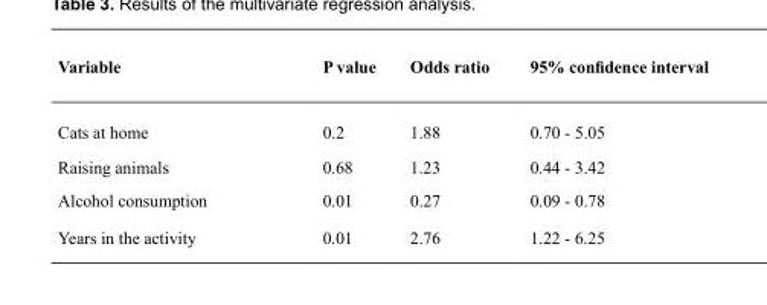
<table><thead><tr><td>Variable</td><td>P value</td><td>Odds ratio</td><td>95% confidence interval</td></tr></thead><tbody><tr><td>Cats at home</td><td>0.2</td><td>1.88</td><td>0.70 - 5.05</td></tr><tr><td>Raising animals</td><td>0.68</td><td>1.23</td><td>0.44 - 3.42</td></tr><tr><td>Alcohol consumption</td><td>0.01</td><td>0.27</td><td>0.09 - 0.78</td></tr><tr><td>Years in the activity</td><td>0.01</td><td>2.76</td><td>1.22 - 6.25</td></tr></tbody></table>